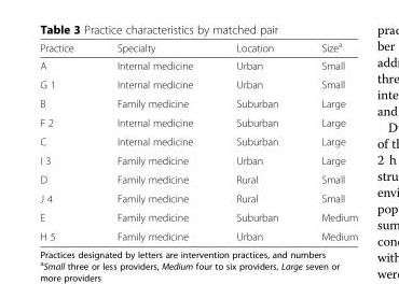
<table><thead><tr><td>Practice</td><td>Specialty</td><td>Location</td><td>Size<sup>a</sup></td></tr></thead><tbody><tr><td>A</td><td>Internal medicine</td><td>Urban</td><td>Small</td></tr><tr><td>G 1</td><td>Internal medicine</td><td>Urban</td><td>Small</td></tr><tr><td>B</td><td>Family medicine</td><td>Suburban</td><td>Large</td></tr><tr><td>F 2</td><td>Internal medicine</td><td>Suburban</td><td>Large</td></tr><tr><td>C</td><td>Internal medicine</td><td>Suburban</td><td>Large</td></tr><tr><td>I 3</td><td>Family medicine</td><td>Urban</td><td>Large</td></tr><tr><td>D</td><td>Family medicine</td><td>Rural</td><td>Small</td></tr><tr><td>J 4</td><td>Family medicine</td><td>Rural</td><td>Small</td></tr><tr><td>E</td><td>Family medicine</td><td>Suburban</td><td>Medium</td></tr><tr><td>H 5</td><td>Family medicine</td><td>Urban</td><td>Medium</td></tr></tbody></table>